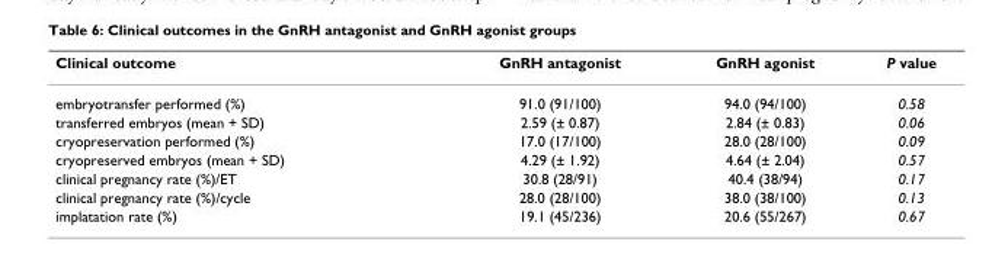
<table><thead><tr><td>Clinical outcome</td><td>GnRH antagonist</td><td>GnRH agonist</td><td>P value</td></tr></thead><tbody><tr><td>embryotransfer performed (%)</td><td>91.0 (91/100)</td><td>94.0 (94/100)</td><td>0.58</td></tr><tr><td>transferred embryos (mean + SD)</td><td>2.59 (± 0.87)</td><td>2.84 (± 0.83)</td><td>0.06</td></tr><tr><td>cryopreservation performed (%)</td><td>17.0 (17/100)</td><td>28.0 (28/100)</td><td>0.09</td></tr><tr><td>cryopreserved embryos (mean + SD)</td><td>4.29 (± 1.92)</td><td>4.64 (± 2.04)</td><td>0.57</td></tr><tr><td>clinical pregnancy rate (%)/ET</td><td>30.8 (28/91)</td><td>40.4 (38/94)</td><td>0.17</td></tr><tr><td>clinical pregnancy rate (%)/cycle</td><td>28.0 (28/100)</td><td>38.0 (38/100)</td><td>0.13</td></tr><tr><td>implatation rate (%)</td><td>19.1 (45/236)</td><td>20.6 (55/267)</td><td>0.67</td></tr></tbody></table>